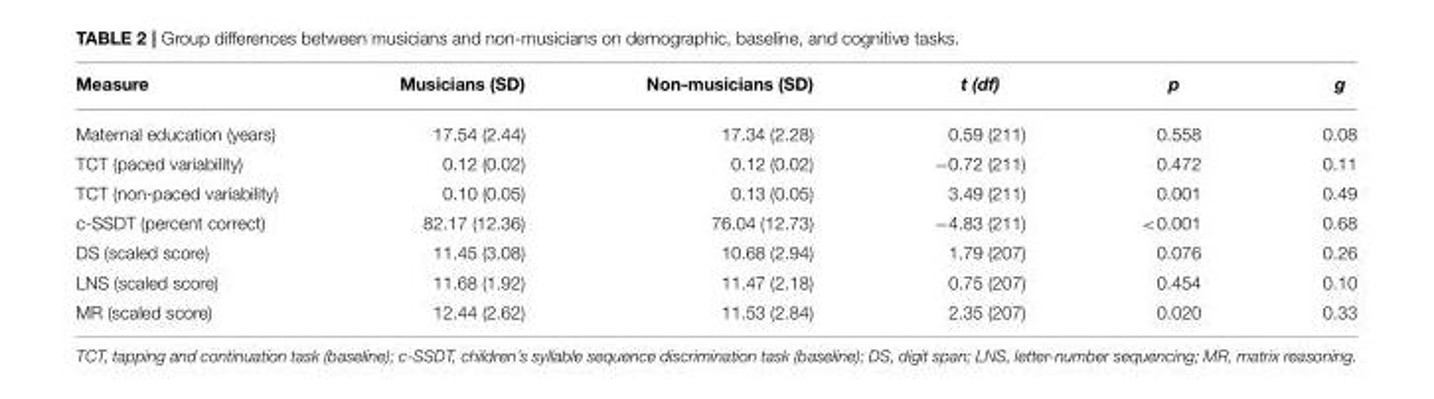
<table><thead><tr><td>Measure</td><td>Musicians (SD)</td><td>Non-musicians (SD)</td><td>t (df)</td><td>p</td><td>g</td></tr></thead><tbody><tr><td>Maternal education (years)</td><td>17.54 (2.44)</td><td>17.34 (2.28)</td><td>0.59 (211)</td><td>0.558</td><td>0.08</td></tr><tr><td>TCT (paced variability)</td><td>0.12 (0.02)</td><td>0.12 (0.02)</td><td>−0.72 (211)</td><td>0.472</td><td>0.11</td></tr><tr><td>TCT (non-paced variability)</td><td>0.10 (0.05)</td><td>0.13 (0.05)</td><td>3.49 (211)</td><td>0.001</td><td>0.49</td></tr><tr><td>c-SSDT (percent correct)</td><td>82.17 (12.36)</td><td>76.04 (12.73)</td><td>−4.83 (211)</td><td>&lt;0.001</td><td>0.68</td></tr><tr><td>DS (scaled score)</td><td>11.45 (3.08)</td><td>10.68 (2.94)</td><td>1.79 (207)</td><td>0.076</td><td>0.26</td></tr><tr><td>LNS (scaled score)</td><td>11.68 (1.92)</td><td>11.47 (2.18)</td><td>0.75 (207)</td><td>0.454</td><td>0.10</td></tr><tr><td>MR (scaled score)</td><td>12.44 (2.62)</td><td>11.53 (2.84)</td><td>2.35 (207)</td><td>0.020</td><td>0.33</td></tr></tbody></table>